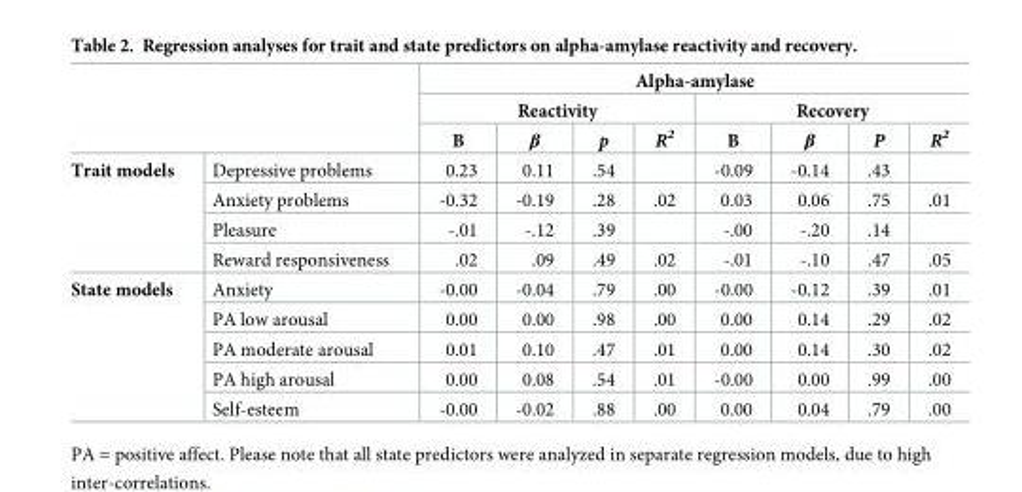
<table><thead><tr><td rowspan="3"></td><td rowspan="3"></td><td colspan="8">Alpha-amylase</td></tr><tr><td colspan="4">Reactivity</td><td colspan="4">Recovery</td></tr><tr><td>B</td><td>β</td><td>p</td><td>R<sup>2</sup></td><td>B</td><td>β</td><td>P</td><td>R<sup>2</sup></td></tr></thead><tbody><tr><td rowspan="4">Trait models</td><td>Depressive problems</td><td>0.23</td><td>0.11</td><td>.54</td><td></td><td>-0.09</td><td>-0.14</td><td>.43</td><td></td></tr><tr><td>Anxiety problems</td><td>-0.32</td><td>-0.19</td><td>.28</td><td>.02</td><td>0.03</td><td>0.06</td><td>.75</td><td>.01</td></tr><tr><td>Pleasure</td><td>-.01</td><td>-.12</td><td>.39</td><td></td><td>-.00</td><td>-.20</td><td>.14</td><td></td></tr><tr><td>Reward responsiveness</td><td>.02</td><td>.09</td><td>.49</td><td>.02</td><td>-.01</td><td>-.10</td><td>.47</td><td>.05</td></tr><tr><td rowspan="5">State models</td><td>Anxiety</td><td>-0.00</td><td>-0.04</td><td>.79</td><td>.00</td><td>-0.00</td><td>-0.12</td><td>.39</td><td>.01</td></tr><tr><td>PA low arousal</td><td>0.00</td><td>0.00</td><td>.98</td><td>.00</td><td>0.00</td><td>0.14</td><td>.29</td><td>.02</td></tr><tr><td>PA moderate arousal</td><td>0.01</td><td>0.10</td><td>.47</td><td>.01</td><td>0.00</td><td>0.14</td><td>.30</td><td>.02</td></tr><tr><td>PA high arousal</td><td>0.00</td><td>0.08</td><td>.54</td><td>.01</td><td>-0.00</td><td>0.00</td><td>.99</td><td>.00</td></tr><tr><td>Self-esteem</td><td>-0.00</td><td>-0.02</td><td>.88</td><td>.00</td><td>0.00</td><td>0.04</td><td>.79</td><td>.00</td></tr></tbody></table>